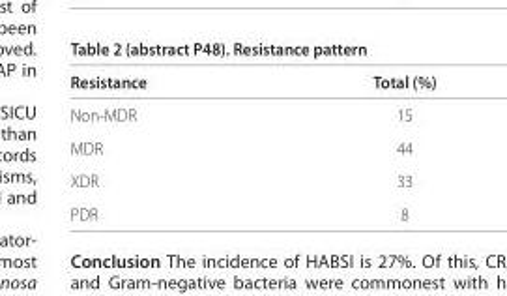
<table><thead><tr><td>Resistance</td><td>Total (%)</td></tr></thead><tbody><tr><td>Non-MDR</td><td>15</td></tr><tr><td>MDR</td><td>44</td></tr><tr><td>XDR</td><td>33</td></tr><tr><td>PDR</td><td>8</td></tr></tbody></table>